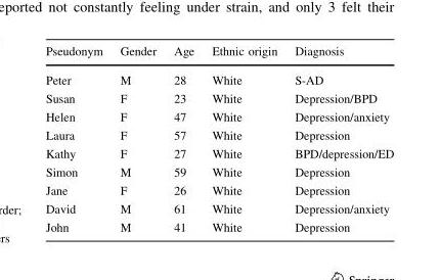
<table><thead><tr><td>Pseudonym</td><td>Gender</td><td>Age</td><td>Ethnic origin</td><td>Diagnosis</td></tr></thead><tbody><tr><td>Peter</td><td>M</td><td>28</td><td>White</td><td>S-AD</td></tr><tr><td>Susan</td><td>F</td><td>23</td><td>White</td><td>Depression/BPD</td></tr><tr><td>Helen</td><td>F</td><td>47</td><td>White</td><td>Depression/anxiety</td></tr><tr><td>Laura</td><td>F</td><td>57</td><td>White</td><td>Depression</td></tr><tr><td>Kathy</td><td>F</td><td>27</td><td>White</td><td>BPD/depression/ED</td></tr><tr><td>Simon</td><td>M</td><td>59</td><td>White</td><td>Depression</td></tr><tr><td>Jane</td><td>F</td><td>26</td><td>White</td><td>Depression</td></tr><tr><td>David</td><td>M</td><td>61</td><td>White</td><td>Depression/anxiety</td></tr><tr><td>John</td><td>M</td><td>41</td><td>White</td><td>Depression</td></tr></tbody></table>